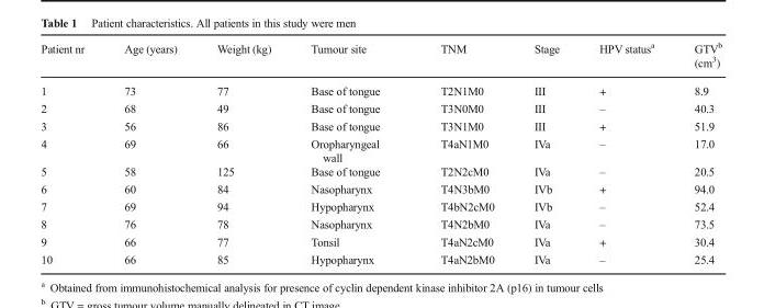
<table><thead><tr><td>Patient nr</td><td>Age (years)</td><td>Weight (kg)</td><td>Tumour site</td><td>TNM</td><td>Stage</td><td>HPV status<sup>a</sup></td><td>GTV<sup>b</sup> (cm<sup>3</sup>)</td></tr></thead><tbody><tr><td>1</td><td>73</td><td>77</td><td>Base of tongue</td><td>T2N1M0</td><td>III</td><td>+</td><td>8.9</td></tr><tr><td>2</td><td>68</td><td>49</td><td>Base of tongue</td><td>T3N0M0</td><td>III</td><td>–</td><td>40.3</td></tr><tr><td>3</td><td>56</td><td>86</td><td>Base of tongue</td><td>T3N1M0</td><td>III</td><td>+</td><td>51.9</td></tr><tr><td>4</td><td>69</td><td>66</td><td>Oropharyngeal wall</td><td>T4aN1M0</td><td>IVa</td><td>–</td><td>17.0</td></tr><tr><td>5</td><td>58</td><td>125</td><td>Base of tongue</td><td>T2N2cM0</td><td>IVa</td><td>–</td><td>20.5</td></tr><tr><td>6</td><td>60</td><td>84</td><td>Nasopharynx</td><td>T4N3bM0</td><td>IVb</td><td>+</td><td>94.0</td></tr><tr><td>7</td><td>69</td><td>94</td><td>Hypopharynx</td><td>T4bN2cM0</td><td>IVb</td><td>–</td><td>52.4</td></tr><tr><td>8</td><td>76</td><td>78</td><td>Nasopharynx</td><td>T4N2bM0</td><td>IVa</td><td>–</td><td>73.5</td></tr><tr><td>9</td><td>66</td><td>77</td><td>Tonsil</td><td>T4aN2cM0</td><td>IVa</td><td>+</td><td>30.4</td></tr><tr><td>10</td><td>66</td><td>85</td><td>Hypopharynx</td><td>T4aN2bM0</td><td>IVa</td><td>–</td><td>25.4</td></tr></tbody></table>